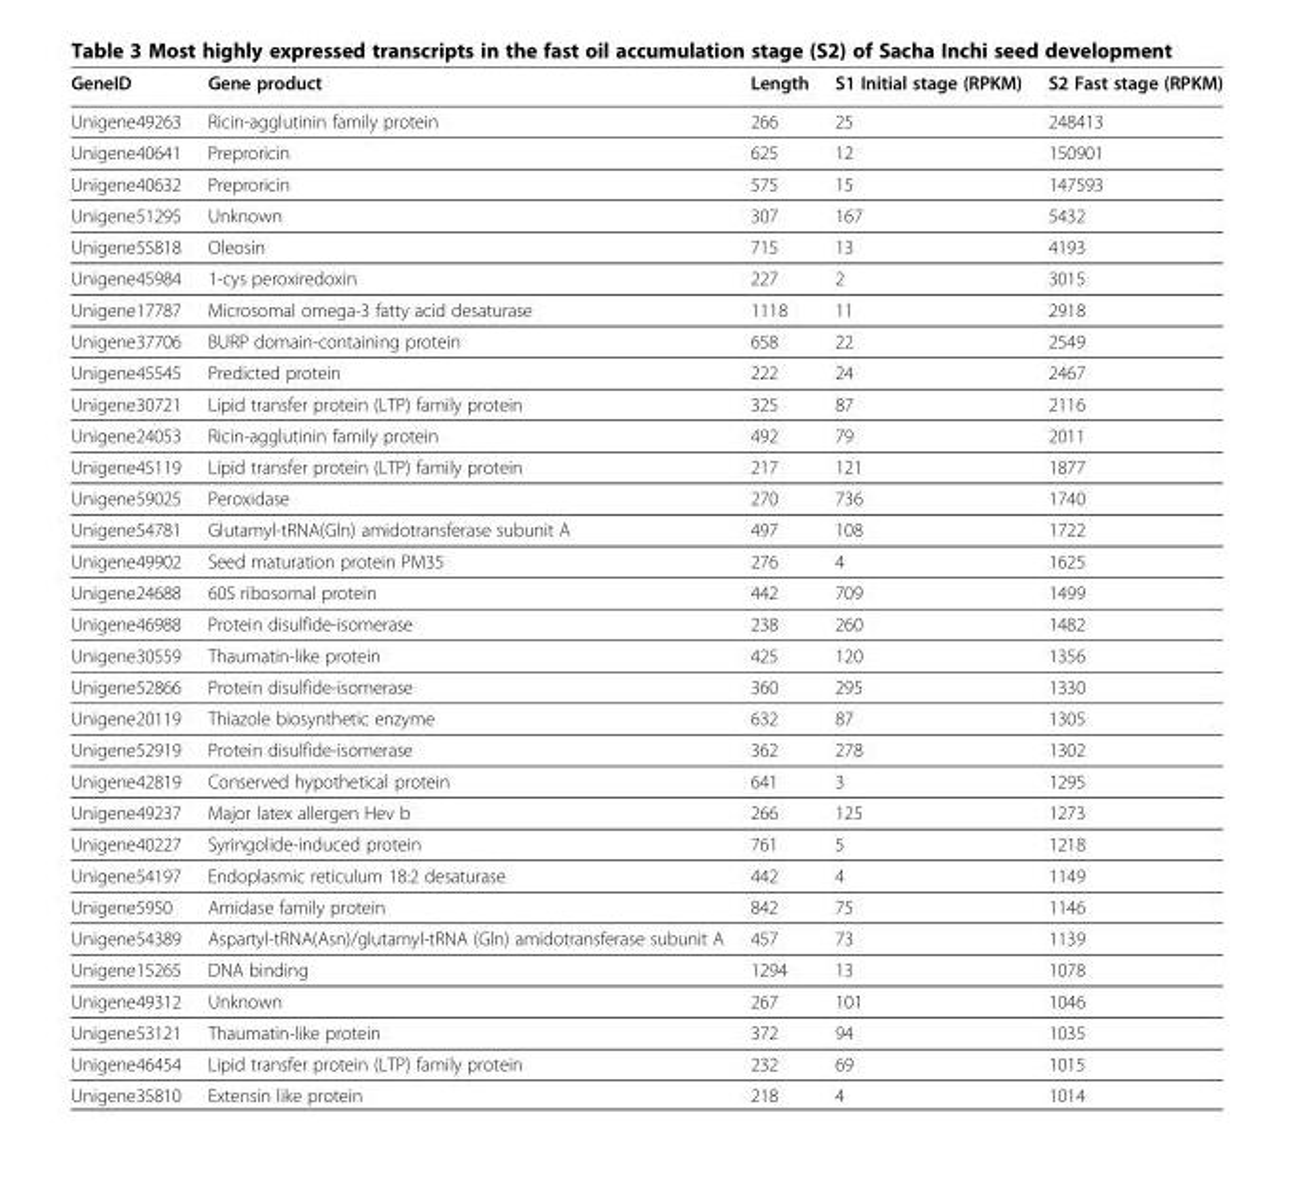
<table><thead><tr><td>GeneID</td><td>Gene product</td><td>Length</td><td>S1 Initial stage (RPKM)</td><td>S2 Fast stage (RPKM)</td></tr></thead><tbody><tr><td>Unigene49263</td><td>Ricin-agglutinin family protein</td><td>266</td><td>25</td><td>248413</td></tr><tr><td>Unigene40641</td><td>Preproricin</td><td>625</td><td>12</td><td>150901</td></tr><tr><td>Unigene40632</td><td>Preproricin</td><td>575</td><td>15</td><td>147593</td></tr><tr><td>Unigene51295</td><td>Unknown</td><td>307</td><td>167</td><td>5432</td></tr><tr><td>Unigene55818</td><td>Oleosin</td><td>715</td><td>13</td><td>4193</td></tr><tr><td>Unigene45984</td><td>1-cys peroxiredoxin</td><td>227</td><td>2</td><td>3015</td></tr><tr><td>Unigene17787</td><td>Microsomal omega-3 fatty acid desaturase</td><td>1118</td><td>11</td><td>2918</td></tr><tr><td>Unigene37706</td><td>BURP domain-containing protein</td><td>658</td><td>22</td><td>2549</td></tr><tr><td>Unigene45545</td><td>Predicted protein</td><td>222</td><td>24</td><td>2467</td></tr><tr><td>Unigene30721</td><td>Lipid transfer protein (LTP) family protein</td><td>325</td><td>87</td><td>2116</td></tr><tr><td>Unigene24053</td><td>Ricin-agglutinin family protein</td><td>492</td><td>79</td><td>2011</td></tr><tr><td>Unigene45119</td><td>Lipid transfer protein (LTP) family protein</td><td>217</td><td>121</td><td>1877</td></tr><tr><td>Unigene59025</td><td>Peroxidase</td><td>270</td><td>736</td><td>1740</td></tr><tr><td>Unigene54781</td><td>Glutamyl-tRNA(Gln) amidotransferase subunit A</td><td>497</td><td>108</td><td>1722</td></tr><tr><td>Unigene49902</td><td>Seed maturation protein PM35</td><td>276</td><td>4</td><td>1625</td></tr><tr><td>Unigene24688</td><td>60S ribosomal protein</td><td>442</td><td>709</td><td>1499</td></tr><tr><td>Unigene46988</td><td>Protein disulfide-isomerase</td><td>238</td><td>260</td><td>1482</td></tr><tr><td>Unigene30559</td><td>Thaumatin-like protein</td><td>425</td><td>120</td><td>1356</td></tr><tr><td>Unigene52866</td><td>Protein disulfide-isomerase</td><td>360</td><td>295</td><td>1330</td></tr><tr><td>Unigene20119</td><td>Thiazole biosynthetic enzyme</td><td>632</td><td>87</td><td>1305</td></tr><tr><td>Unigene52919</td><td>Protein disulfide-isomerase</td><td>362</td><td>278</td><td>1302</td></tr><tr><td>Unigene42819</td><td>Conserved hypothetical protein</td><td>641</td><td>3</td><td>1295</td></tr><tr><td>Unigene49237</td><td>Major latex allergen Hev b</td><td>266</td><td>125</td><td>1273</td></tr><tr><td>Unigene40227</td><td>Syringolide-induced protein</td><td>761</td><td>5</td><td>1218</td></tr><tr><td>Unigene54197</td><td>Endoplasmic reticulum 18:2 desaturase</td><td>442</td><td>4</td><td>1149</td></tr><tr><td>Unigene5950</td><td>Amidase family protein</td><td>842</td><td>75</td><td>1146</td></tr><tr><td>Unigene54389</td><td>Aspartyl-tRNA(Asn)/glutamyl-tRNA (Gln) amidotransferase subunit A</td><td>457</td><td>73</td><td>1139</td></tr><tr><td>Unigene15265</td><td>DNA binding</td><td>1294</td><td>13</td><td>1078</td></tr><tr><td>Unigene49312</td><td>Unknown</td><td>267</td><td>101</td><td>1046</td></tr><tr><td>Unigene53121</td><td>Thaumatin-like protein</td><td>372</td><td>94</td><td>1035</td></tr><tr><td>Unigene46454</td><td>Lipid transfer protein (LTP) family protein</td><td>232</td><td>69</td><td>1015</td></tr><tr><td>Unigene35810</td><td>Extensin like protein</td><td>218</td><td>4</td><td>1014</td></tr></tbody></table>